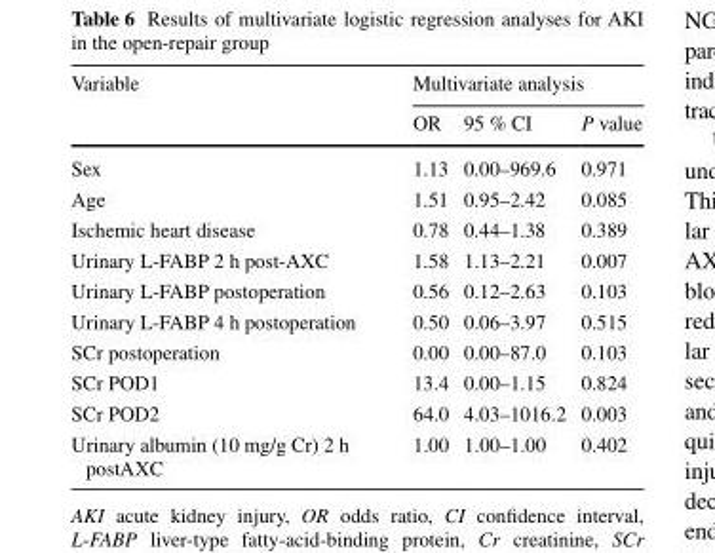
<table><thead><tr><td rowspan="2">Variable</td><td colspan="3">Multivariate analysis</td></tr><tr><td>OR</td><td>95 % CI</td><td>P value</td></tr></thead><tbody><tr><td>Sex</td><td>1.13</td><td>0.00–969.6</td><td>0.971</td></tr><tr><td>Age</td><td>1.51</td><td>0.95–2.42</td><td>0.085</td></tr><tr><td>Ischemic heart disease</td><td>0.78</td><td>0.44–1.38</td><td>0.389</td></tr><tr><td>Urinary L-FABP 2 h post-AXC</td><td>1.58</td><td>1.13–2.21</td><td>0.007</td></tr><tr><td>Urinary L-FABP postoperation</td><td>0.56</td><td>0.12–2.63</td><td>0.103</td></tr><tr><td>Urinary L-FABP 4 h postoperation</td><td>0.50</td><td>0.06–3.97</td><td>0.515</td></tr><tr><td>SCr postoperation</td><td>0.00</td><td>0.00–87.0</td><td>0.103</td></tr><tr><td>SCr POD1</td><td>13.4</td><td>0.00–1.15</td><td>0.824</td></tr><tr><td>SCr POD2</td><td>64.0</td><td>4.03–1016.2</td><td>0.003</td></tr><tr><td>Urinary albumin (10 mg/g Cr) 2 h postAXC</td><td>1.00</td><td>1.00–1.00</td><td>0.402</td></tr></tbody></table>